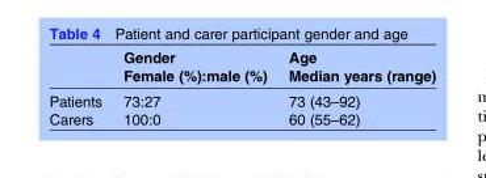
<table><thead><tr><td></td><td>Gender Female (%):male (%)</td><td>Age Median years (range)</td></tr></thead><tbody><tr><td>Patients</td><td>73:27</td><td>73 (43–92)</td></tr><tr><td>Carers</td><td>100:0</td><td>60 (55–62)</td></tr></tbody></table>